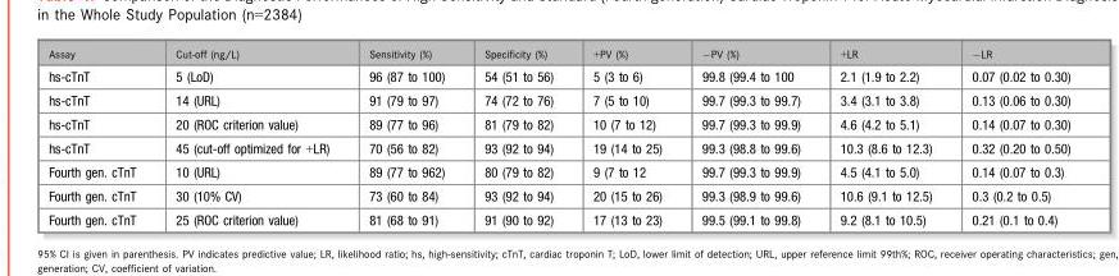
<table><thead><tr><td>Assay</td><td>Cut-off (ng/L)</td><td>Sensitivity (%)</td><td>Specificity (%)</td><td>+PV (%)</td><td>−PV (%)</td><td>+LR</td><td>−LR</td></tr></thead><tbody><tr><td>hs-cTnT</td><td>5 (LoD)</td><td>96 (87 to 100)</td><td>54 (51 to 56)</td><td>5 (3 to 6)</td><td>99.8 (99.4 to 100</td><td>2.1 (1.9 to 2.2)</td><td>0.07 (0.02 to 0.30)</td></tr><tr><td>hs-cTnT</td><td>14 (URL)</td><td>91 (79 to 97)</td><td>74 (72 to 76)</td><td>7 (5 to 10)</td><td>99.7 (99.3 to 99.7)</td><td>3.4 (3.1 to 3.8)</td><td>0.13 (0.06 to 0.30)</td></tr><tr><td>hs-cTnT</td><td>20 (ROC criterion value)</td><td>89 (77 to 96)</td><td>81 (79 to 82)</td><td>10 (7 to 12)</td><td>99.7 (99.3 to 99.9)</td><td>4.6 (4.2 to 5.1)</td><td>0.14 (0.07 to 0.30)</td></tr><tr><td>hs-cTnT</td><td>45 (cut-off optimized for +LR)</td><td>70 (56 to 82)</td><td>93 (92 to 94)</td><td>19 (14 to 25)</td><td>99.3 (98.8 to 99.6)</td><td>10.3 (8.6 to 12.3)</td><td>0.32 (0.20 to 0.50)</td></tr><tr><td>Fourth gen. cTnT</td><td>10 (URL)</td><td>89 (77 to 962)</td><td>80 (79 to 82)</td><td>9 (7 to 12</td><td>99.7 (99.3 to 99.9)</td><td>4.5 (4.1 to 5.0)</td><td>0.14 (0.07 to 0.3)</td></tr><tr><td>Fourth gen. cTnT</td><td>30 (10% CV)</td><td>73 (60 to 84)</td><td>93 (92 to 94)</td><td>20 (15 to 26)</td><td>99.3 (98.9 to 99.6)</td><td>10.6 (9.1 to 12.5)</td><td>0.3 (0.2 to 0.5)</td></tr><tr><td>Fourth gen. cTnT</td><td>25 (ROC criterion value)</td><td>81 (68 to 91)</td><td>91 (90 to 92)</td><td>17 (13 to 23)</td><td>99.5 (99.1 to 99.8)</td><td>9.2 (8.1 to 10.5)</td><td>0.21 (0.1 to 0.4)</td></tr></tbody></table>